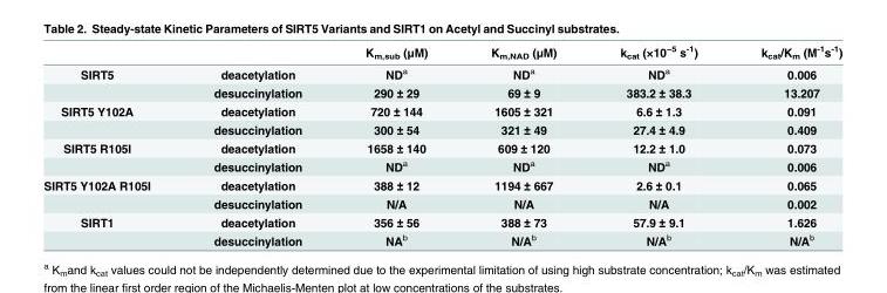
<table><thead><tr><td></td><td></td><td>K<sub>m,sub</sub> (μM)</td><td>K<sub>m,NAD</sub> (μM)</td><td>k<sub>cat</sub> (×10<sup>−5</sup> s<sup>-1</sup>)</td><td>k<sub>cat</sub>/K<sub>m</sub> (M<sup>-1</sup>s<sup>-1</sup>)</td></tr></thead><tbody><tr><td rowspan="2">SIRT5</td><td>deacetylation</td><td>ND<sup>a</sup></td><td>ND<sup>a</sup></td><td>ND<sup>a</sup></td><td>0.006</td></tr><tr><td>desuccinylation</td><td>290 ± 29</td><td>69 ± 9</td><td>383.2 ± 38.3</td><td>13.207</td></tr><tr><td rowspan="2">SIRT5 Y102A</td><td>deacetylation</td><td>720 ± 144</td><td>1605 ± 321</td><td>6.6 ± 1.3</td><td>0.091</td></tr><tr><td>desuccinylation</td><td>300 ± 54</td><td>321 ± 49</td><td>27.4 ± 4.9</td><td>0.409</td></tr><tr><td rowspan="2">SIRT5 R105I</td><td>deacetylation</td><td>1658 ± 140</td><td>609 ± 120</td><td>12.2 ± 1.0</td><td>0.073</td></tr><tr><td>desuccinylation</td><td>ND<sup>a</sup></td><td>ND<sup>a</sup></td><td>ND<sup>a</sup></td><td>0.006</td></tr><tr><td rowspan="2">SIRT5 Y102A R105I</td><td>deacetylation</td><td>388 ± 12</td><td>1194 ± 667</td><td>2.6 ± 0.1</td><td>0.065</td></tr><tr><td>desuccinylation</td><td>N/A</td><td>N/A</td><td>N/A</td><td>0.002</td></tr><tr><td rowspan="2">SIRT1</td><td>deacetylation</td><td>356 ± 56</td><td>388 ± 73</td><td>57.9 ± 9.1</td><td>1.626</td></tr><tr><td>desuccinylation</td><td>NA<sup>b</sup></td><td>N/A<sup>b</sup></td><td>N/A<sup>b</sup></td><td>N/A<sup>b</sup></td></tr></tbody></table>